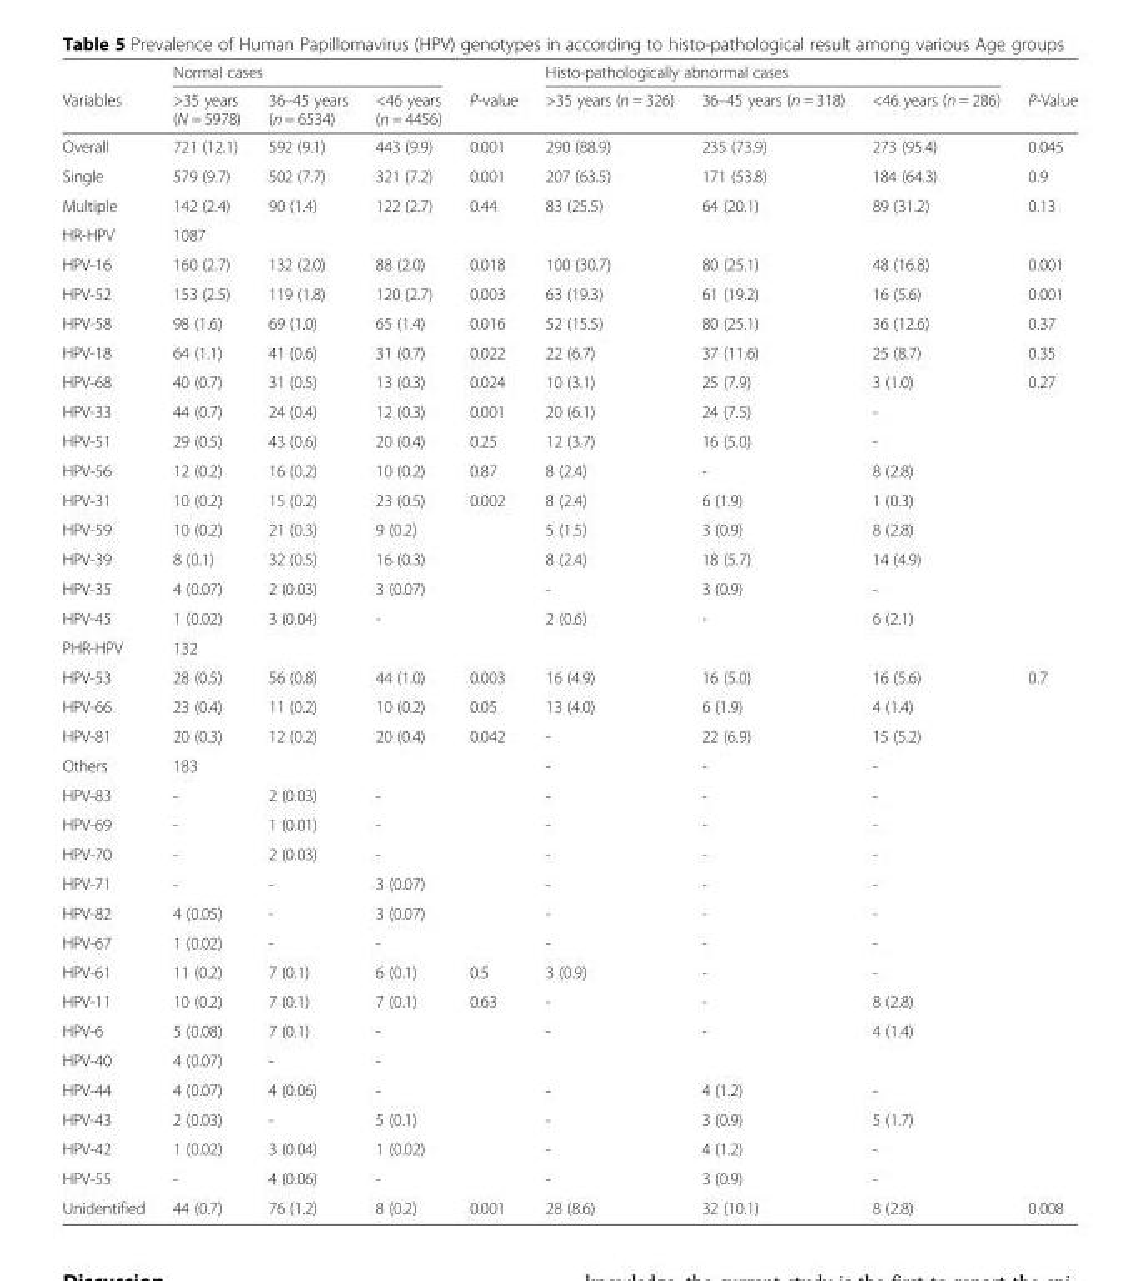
<table><thead><tr><td rowspan="2">Variables</td><td colspan="3">Normal cases</td><td rowspan="2">P-value</td><td colspan="3">Histo-pathologically abnormal cases</td><td rowspan="2">P-Value</td></tr><tr><td>&gt;35 years (N = 5978)</td><td>36–45 years (n = 6534)</td><td>&lt;46 years (n = 4456)</td><td>&gt;35 years (n = 326)</td><td>36–45 years (n = 318)</td><td>&lt;46 years (n = 286)</td></tr></thead><tbody><tr><td>Overall</td><td>721 (12.1)</td><td>592 (9.1)</td><td>443 (9.9)</td><td>0.001</td><td>290 (88.9)</td><td>235 (73.9)</td><td>273 (95.4)</td><td>0.045</td></tr><tr><td>Single</td><td>579 (9.7)</td><td>502 (7.7)</td><td>321 (7.2)</td><td>0.001</td><td>207 (63.5)</td><td>171 (53.8)</td><td>184 (64.3)</td><td>0.9</td></tr><tr><td>Multiple</td><td>142 (2.4)</td><td>90 (1.4)</td><td>122 (2.7)</td><td>0.44</td><td>83 (25.5)</td><td>64 (20.1)</td><td>89 (31.2)</td><td>0.13</td></tr><tr><td>HR-HPV</td><td>1087</td><td></td><td></td><td></td><td></td><td></td><td></td><td></td></tr><tr><td>HPV-16</td><td>160 (2.7)</td><td>132 (2.0)</td><td>88 (2.0)</td><td>0.018</td><td>100 (30.7)</td><td>80 (25.1)</td><td>48 (16.8)</td><td>0.001</td></tr><tr><td>HPV-52</td><td>153 (2.5)</td><td>119 (1.8)</td><td>120 (2.7)</td><td>0.003</td><td>63 (19.3)</td><td>61 (19.2)</td><td>16 (5.6)</td><td>0.001</td></tr><tr><td>HPV-58</td><td>98 (1.6)</td><td>69 (1.0)</td><td>65 (1.4)</td><td>0.016</td><td>52 (15.5)</td><td>80 (25.1)</td><td>36 (12.6)</td><td>0.37</td></tr><tr><td>HPV-18</td><td>64 (1.1)</td><td>41 (0.6)</td><td>31 (0.7)</td><td>0.022</td><td>22 (6.7)</td><td>37 (11.6)</td><td>25 (8.7)</td><td>0.35</td></tr><tr><td>HPV-68</td><td>40 (0.7)</td><td>31 (0.5)</td><td>13 (0.3)</td><td>0.024</td><td>10 (3.1)</td><td>25 (7.9)</td><td>3 (1.0)</td><td>0.27</td></tr><tr><td>HPV-33</td><td>44 (0.7)</td><td>24 (0.4)</td><td>12 (0.3)</td><td>0.001</td><td>20 (6.1)</td><td>24 (7.5)</td><td>-</td><td></td></tr><tr><td>HPV-51</td><td>29 (0.5)</td><td>43 (0.6)</td><td>20 (0.4)</td><td>0.25</td><td>12 (3.7)</td><td>16 (5.0)</td><td>-</td><td></td></tr><tr><td>HPV-56</td><td>12 (0.2)</td><td>16 (0.2)</td><td>10 (0.2)</td><td>0.87</td><td>8 (2.4)</td><td>-</td><td>8 (2.8)</td><td></td></tr><tr><td>HPV-31</td><td>10 (0.2)</td><td>15 (0.2)</td><td>23 (0.5)</td><td>0.002</td><td>8 (2.4)</td><td>6 (1.9)</td><td>1 (0.3)</td><td></td></tr><tr><td>HPV-59</td><td>10 (0.2)</td><td>21 (0.3)</td><td>9 (0.2)</td><td></td><td>5 (1.5)</td><td>3 (0.9)</td><td>8 (2.8)</td><td></td></tr><tr><td>HPV-39</td><td>8 (0.1)</td><td>32 (0.5)</td><td>16 (0.3)</td><td></td><td>8 (2.4)</td><td>18 (5.7)</td><td>14 (4.9)</td><td></td></tr><tr><td>HPV-35</td><td>4 (0.07)</td><td>2 (0.03)</td><td>3 (0.07)</td><td></td><td>-</td><td>3 (0.9)</td><td>-</td><td></td></tr><tr><td>HPV-45</td><td>1 (0.02)</td><td>3 (0.04)</td><td>-</td><td></td><td>2 (0.6)</td><td>-</td><td>6 (2.1)</td><td></td></tr><tr><td>PHR-HPV</td><td>132</td><td></td><td></td><td></td><td></td><td></td><td></td><td></td></tr><tr><td>HPV-53</td><td>28 (0.5)</td><td>56 (0.8)</td><td>44 (1.0)</td><td>0.003</td><td>16 (4.9)</td><td>16 (5.0)</td><td>16 (5.6)</td><td>0.7</td></tr><tr><td>HPV-66</td><td>23 (0.4)</td><td>11 (0.2)</td><td>10 (0.2)</td><td>0.05</td><td>13 (4.0)</td><td>6 (1.9)</td><td>4 (1.4)</td><td></td></tr><tr><td>HPV-81</td><td>20 (0.3)</td><td>12 (0.2)</td><td>20 (0.4)</td><td>0.042</td><td>-</td><td>22 (6.9)</td><td>15 (5.2)</td><td></td></tr><tr><td>Others</td><td>183</td><td></td><td></td><td></td><td>-</td><td>-</td><td>-</td><td></td></tr><tr><td>HPV-83</td><td>-</td><td>2 (0.03)</td><td>-</td><td></td><td>-</td><td>-</td><td>-</td><td></td></tr><tr><td>HPV-69</td><td>-</td><td>1 (0.01)</td><td>-</td><td></td><td>-</td><td>-</td><td>-</td><td></td></tr><tr><td>HPV-70</td><td>-</td><td>2 (0.03)</td><td>-</td><td></td><td>-</td><td>-</td><td>-</td><td></td></tr><tr><td>HPV-71</td><td>-</td><td>-</td><td>3 (0.07)</td><td></td><td>-</td><td>-</td><td>-</td><td></td></tr><tr><td>HPV-82</td><td>4 (0.05)</td><td>-</td><td>3 (0.07)</td><td></td><td>-</td><td>-</td><td>-</td><td></td></tr><tr><td>HPV-67</td><td>1 (0.02)</td><td>-</td><td>-</td><td></td><td>-</td><td>-</td><td>-</td><td></td></tr><tr><td>HPV-61</td><td>11 (0.2)</td><td>7 (0.1)</td><td>6 (0.1)</td><td>0.5</td><td>3 (0.9)</td><td>-</td><td>-</td><td></td></tr><tr><td>HPV-11</td><td>10 (0.2)</td><td>7 (0.1)</td><td>7 (0.1)</td><td>0.63</td><td>-</td><td>-</td><td>8 (2.8)</td><td></td></tr><tr><td>HPV-6</td><td>5 (0.08)</td><td>7 (0.1)</td><td>-</td><td></td><td>-</td><td>-</td><td>4 (1.4)</td><td></td></tr><tr><td>HPV-40</td><td>4 (0.07)</td><td>-</td><td>-</td><td></td><td></td><td></td><td></td><td></td></tr><tr><td>HPV-44</td><td>4 (0.07)</td><td>4 (0.06)</td><td>-</td><td></td><td>-</td><td>4 (1.2)</td><td>-</td><td></td></tr><tr><td>HPV-43</td><td>2 (0.03)</td><td>-</td><td>5 (0.1)</td><td></td><td>-</td><td>3 (0.9)</td><td>5 (1.7)</td><td></td></tr><tr><td>HPV-42</td><td>1 (0.02)</td><td>3 (0.04)</td><td>1 (0.02)</td><td></td><td>-</td><td>4 (1.2)</td><td>-</td><td></td></tr><tr><td>HPV-55</td><td>-</td><td>4 (0.06)</td><td>-</td><td></td><td>-</td><td>3 (0.9)</td><td>-</td><td></td></tr><tr><td>Unidentified</td><td>44 (0.7)</td><td>76 (1.2)</td><td>8 (0.2)</td><td>0.001</td><td>28 (8.6)</td><td>32 (10.1)</td><td>8 (2.8)</td><td>0.008</td></tr></tbody></table>